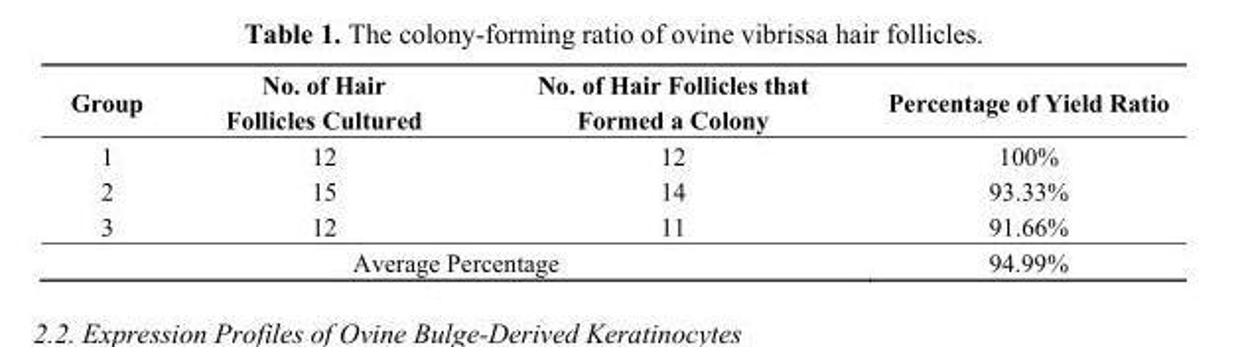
<table><thead><tr><td>Group</td><td>No. of Hair Follicles Cultured</td><td>No. of Hair Follicles that Formed a Colony</td><td>Percentage of Yield Ratio</td></tr></thead><tbody><tr><td>1</td><td>12</td><td>12</td><td>100%</td></tr><tr><td>2</td><td>15</td><td>14</td><td>93.33%</td></tr><tr><td>3</td><td>12</td><td>11</td><td>91.66%</td></tr><tr><td colspan="3">Average Percentage</td><td>94.99%</td></tr></tbody></table>